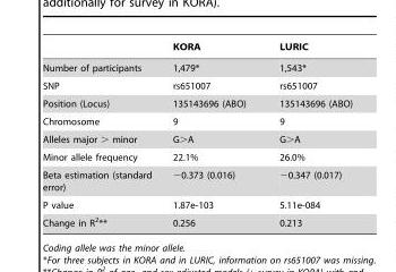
<table><thead><tr><td></td><td>KORA</td><td>LURIC</td></tr></thead><tbody><tr><td>Number of participants</td><td>1,479*</td><td>1,543*</td></tr><tr><td>SNP</td><td>rs651007</td><td>rs651007</td></tr><tr><td>Position (Locus)</td><td>135143696 (ABO)</td><td>135143696 (ABO)</td></tr><tr><td>Chromosome</td><td>9</td><td>9</td></tr><tr><td>Alleles major &gt; minor</td><td>G&gt;A</td><td>G&gt;A</td></tr><tr><td>Minor allele frequency</td><td>22.1%</td><td>26.0%</td></tr><tr><td>Beta estimation (standard error)</td><td>−0.373 (0.016)</td><td>−0.347 (0.017)</td></tr><tr><td>P value</td><td>1.87e-103</td><td>5.11e-084</td></tr><tr><td>Change in R<sup>2</sup>**</td><td>0.256</td><td>0.213</td></tr></tbody></table>